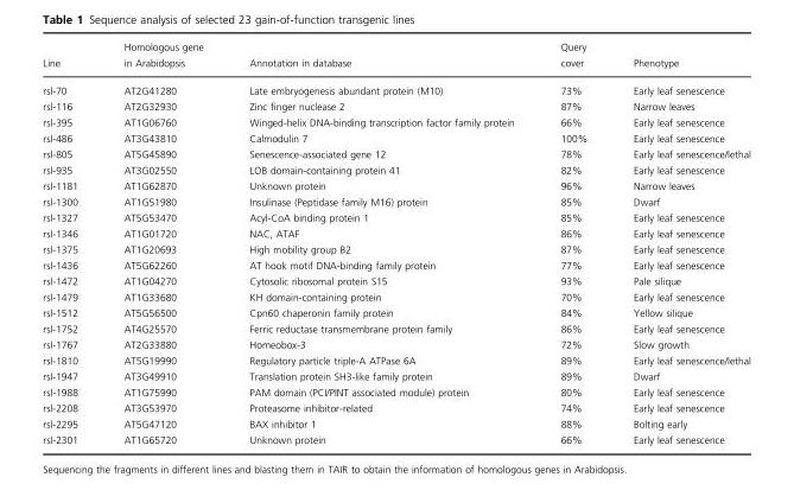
<table><thead><tr><td>Line</td><td>Homologous gene in Arabidopsis</td><td>Annotation in database</td><td>Query cover</td><td>Phenotype</td></tr></thead><tbody><tr><td>rsl-70</td><td>AT2G41280</td><td>Late embryogenesis abundant protein (M10)</td><td>73%</td><td>Early leaf senescence</td></tr><tr><td>rsl-116</td><td>AT2G32930</td><td>Zinc finger nuclease 2</td><td>87%</td><td>Narrow leaves</td></tr><tr><td>rsl-395</td><td>AT1G06760</td><td>Winged-helix DNA-binding transcription factor family protein</td><td>66%</td><td>Early leaf senescence</td></tr><tr><td>rsl-486</td><td>AT3G43810</td><td>Calmodulin 7</td><td>100%</td><td>Early leaf senescence</td></tr><tr><td>rsl-805</td><td>AT5G45890</td><td>Senescence-associated gene 12</td><td>78%</td><td>Early leaf senescence/lethal</td></tr><tr><td>rsl-935</td><td>AT3G02550</td><td>LOB domain-containing protein 41</td><td>82%</td><td>Early leaf senescence</td></tr><tr><td>rsl-1181</td><td>AT1G62870</td><td>Unknown protein</td><td>96%</td><td>Narrow leaves</td></tr><tr><td>rsl-1300</td><td>AT1G51980</td><td>Insulinase (Peptidase family M16) protein</td><td>85%</td><td>Dwarf</td></tr><tr><td>rsl-1327</td><td>AT5G53470</td><td>Acyl-CoA binding protein 1</td><td>85%</td><td>Early leaf senescence</td></tr><tr><td>rsl-1346</td><td>AT1G01720</td><td>NAC, ATAF</td><td>86%</td><td>Early leaf senescence</td></tr><tr><td>rsl-1375</td><td>AT1G20693</td><td>High mobility group B2</td><td>87%</td><td>Early leaf senescence</td></tr><tr><td>rsl-1436</td><td>AT5G62260</td><td>AT hook motif DNA-binding family protein</td><td>77%</td><td>Early leaf senescence</td></tr><tr><td>rsl-1472</td><td>AT1G04270</td><td>Cytosolic ribosomal protein S15</td><td>93%</td><td>Pale silique</td></tr><tr><td>rsl-1479</td><td>AT1G33680</td><td>KH domain-containing protein</td><td>70%</td><td>Early leaf senescence</td></tr><tr><td>rsl-1512</td><td>AT5G56500</td><td>Cpn60 chaperonin family protein</td><td>84%</td><td>Yellow silique</td></tr><tr><td>rsl-1752</td><td>AT4G25570</td><td>Ferric reductase transmembrane protein family</td><td>86%</td><td>Early leaf senescence</td></tr><tr><td>rsl-1767</td><td>AT2G33880</td><td>Homeobox-3</td><td>72%</td><td>Slow growth</td></tr><tr><td>rsl-1810</td><td>AT5G19990</td><td>Regulatory particle triple-A ATPase 6A</td><td>89%</td><td>Early leaf senescence/lethal</td></tr><tr><td>rsl-1947</td><td>AT3G49910</td><td>Translation protein SH3-like family protein</td><td>89%</td><td>Dwarf</td></tr><tr><td>rsl-1988</td><td>AT1G75990</td><td>PAM domain (PCI/PINT associated module) protein</td><td>80%</td><td>Early leaf senescence</td></tr><tr><td>rsl-2208</td><td>AT3G53970</td><td>Proteasome inhibitor-related</td><td>74%</td><td>Early leaf senescence</td></tr><tr><td>rsl-2295</td><td>AT5G47120</td><td>BAX inhibitor 1</td><td>88%</td><td>Bolting early</td></tr><tr><td>rsl-2301</td><td>AT1G65720</td><td>Unknown protein</td><td>66%</td><td>Early leaf senescence</td></tr></tbody></table>